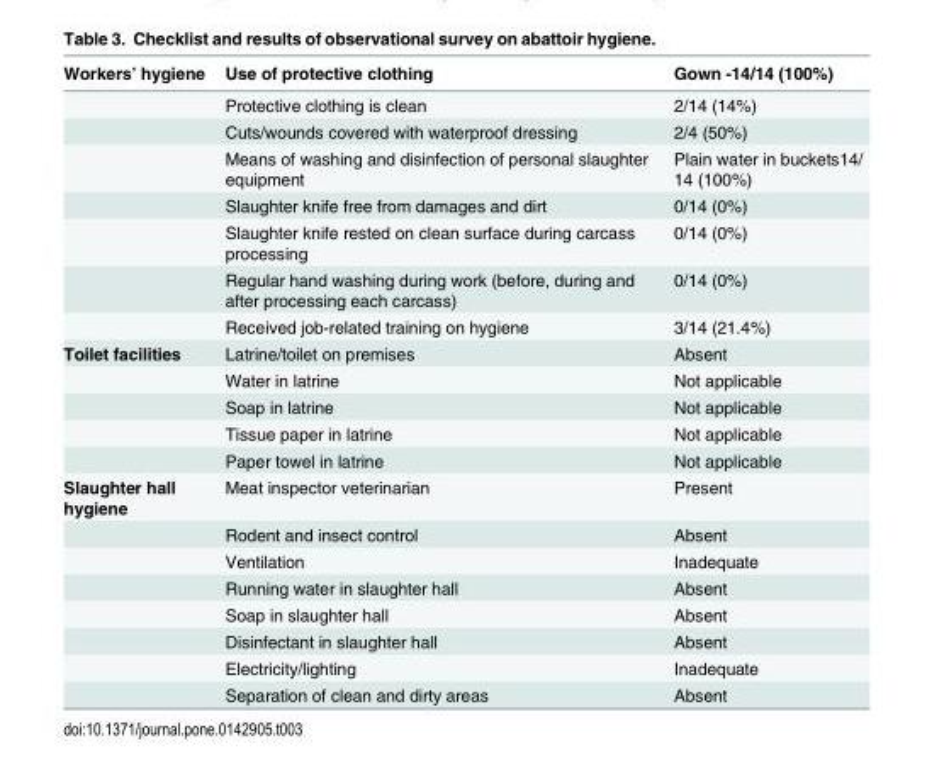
<table><thead><tr><td>Workers’ hygiene</td><td>Use of protective clothing</td><td>Gown -14/14 (100%)</td></tr></thead><tbody><tr><td></td><td>Protective clothing is clean</td><td>2/14 (14%)</td></tr><tr><td></td><td>Cuts/wounds covered with waterproof dressing</td><td>2/4 (50%)</td></tr><tr><td></td><td>Means of washing and disinfection of personal slaughter equipment</td><td>Plain water in buckets14/ 14 (100%)</td></tr><tr><td></td><td>Slaughter knife free from damages and dirt</td><td>0/14 (0%)</td></tr><tr><td></td><td>Slaughter knife rested on clean surface during carcass processing</td><td>0/14 (0%)</td></tr><tr><td></td><td>Regular hand washing during work (before, during and after processing each carcass)</td><td>0/14 (0%)</td></tr><tr><td></td><td>Received job-related training on hygiene</td><td>3/14 (21.4%)</td></tr><tr><td rowspan="5">Toilet facilities</td><td>Latrine/toilet on premises</td><td>Absent</td></tr><tr><td>Water in latrine</td><td>Not applicable</td></tr><tr><td>Soap in latrine</td><td>Not applicable</td></tr><tr><td>Tissue paper in latrine</td><td>Not applicable</td></tr><tr><td>Paper towel in latrine</td><td>Not applicable</td></tr><tr><td rowspan="8">Slaughter hall hygiene</td><td>Meat inspector veterinarian</td><td>Present</td></tr><tr><td>Rodent and insect control</td><td>Absent</td></tr><tr><td>Ventilation</td><td>Inadequate</td></tr><tr><td>Running water in slaughter hall</td><td>Absent</td></tr><tr><td>Soap in slaughter hall</td><td>Absent</td></tr><tr><td>Disinfectant in slaughter hall</td><td>Absent</td></tr><tr><td>Electricity/lighting</td><td>Inadequate</td></tr><tr><td>Separation of clean and dirty areas</td><td>Absent</td></tr></tbody></table>